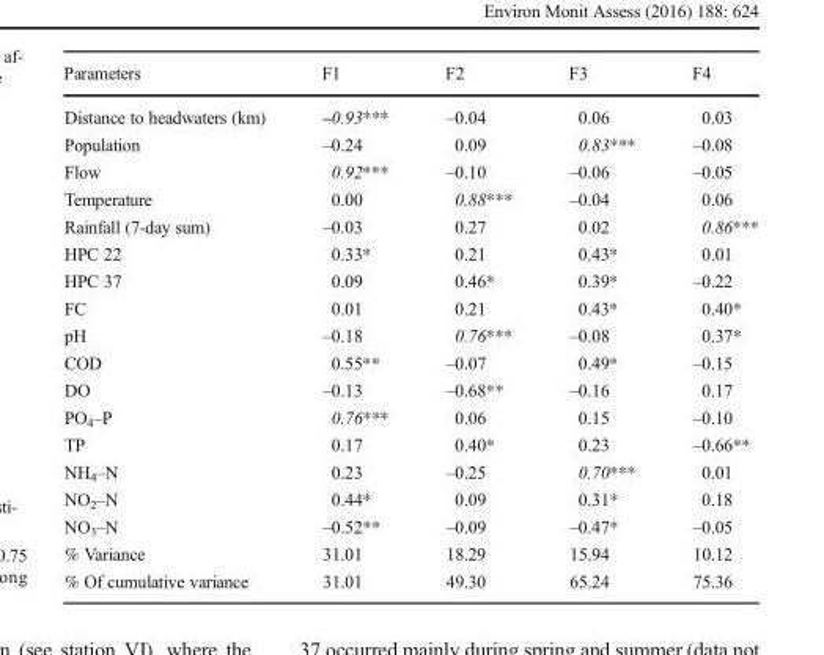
<table><thead><tr><td>Parameters</td><td>F1</td><td>F2</td><td>F3</td><td>F4</td></tr></thead><tbody><tr><td>Distance to headwaters (km)</td><td>–0.93***</td><td>–0.04</td><td>0.06</td><td>0.03</td></tr><tr><td>Population</td><td>–0.24</td><td>0.09</td><td>0.83***</td><td>–0.08</td></tr><tr><td>Flow</td><td>0.92***</td><td>–0.10</td><td>–0.06</td><td>–0.05</td></tr><tr><td>Temperature</td><td>0.00</td><td>0.88***</td><td>–0.04</td><td>0.06</td></tr><tr><td>Rainfall (7-day sum)</td><td>–0.03</td><td>0.27</td><td>0.02</td><td>0.86***</td></tr><tr><td>HPC 22</td><td>0.33*</td><td>0.21</td><td>0.43*</td><td>0.01</td></tr><tr><td>HPC 37</td><td>0.09</td><td>0.46*</td><td>0.39*</td><td>–0.22</td></tr><tr><td>FC</td><td>0.01</td><td>0.21</td><td>0.43*</td><td>0.40*</td></tr><tr><td>pH</td><td>–0.18</td><td>0.76***</td><td>–0.08</td><td>0.37*</td></tr><tr><td>COD</td><td>0.55**</td><td>–0.07</td><td>0.49*</td><td>–0.15</td></tr><tr><td>DO</td><td>–0.13</td><td>–0.68**</td><td>–0.16</td><td>0.17</td></tr><tr><td>PO<sub>4</sub>–P</td><td>0.76***</td><td>0.06</td><td>0.15</td><td>–0.10</td></tr><tr><td>TP</td><td>0.17</td><td>0.40*</td><td>0.23</td><td>–0.66**</td></tr><tr><td>NH<sub>4</sub>–N</td><td>0.23</td><td>–0.25</td><td>0.70***</td><td>0.01</td></tr><tr><td>NO<sub>2</sub>–N</td><td>0.44*</td><td>0.09</td><td>0.31*</td><td>0.18</td></tr><tr><td>NO<sub>3</sub>–N</td><td>–0.52**</td><td>–0.09</td><td>–0.47*</td><td>–0.05</td></tr><tr><td>% Variance</td><td>31.01</td><td>18.29</td><td>15.94</td><td>10.12</td></tr><tr><td>% Of cumulative variance</td><td>31.01</td><td>49.30</td><td>65.24</td><td>75.36</td></tr></tbody></table>